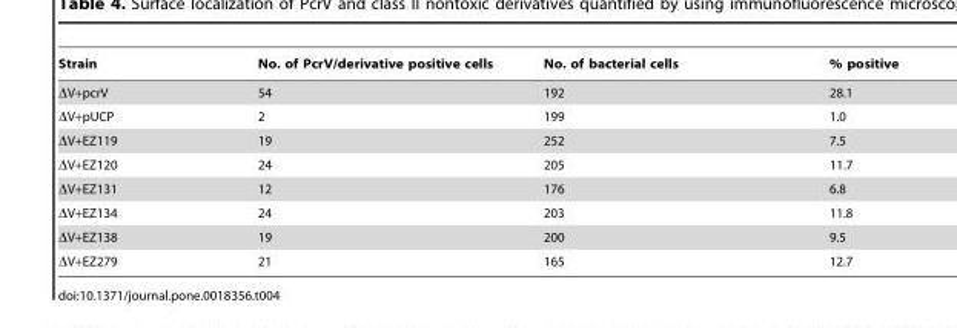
<table><thead><tr><td>Strain</td><td>No. of PcrV/derivative positive cells</td><td>No. of bacterial cells</td><td>% positive</td></tr></thead><tbody><tr><td>ΔV+pcrV</td><td>54</td><td>192</td><td>28.1</td></tr><tr><td>ΔV+pUCP</td><td>2</td><td>199</td><td>1.0</td></tr><tr><td>ΔV+EZ119</td><td>19</td><td>252</td><td>7.5</td></tr><tr><td>ΔV+EZ120</td><td>24</td><td>205</td><td>11.7</td></tr><tr><td>ΔV+EZ131</td><td>12</td><td>176</td><td>6.8</td></tr><tr><td>ΔV+EZ134</td><td>24</td><td>203</td><td>11.8</td></tr><tr><td>ΔV+EZ138</td><td>19</td><td>200</td><td>9.5</td></tr><tr><td>ΔV+EZ279</td><td>21</td><td>165</td><td>12.7</td></tr></tbody></table>